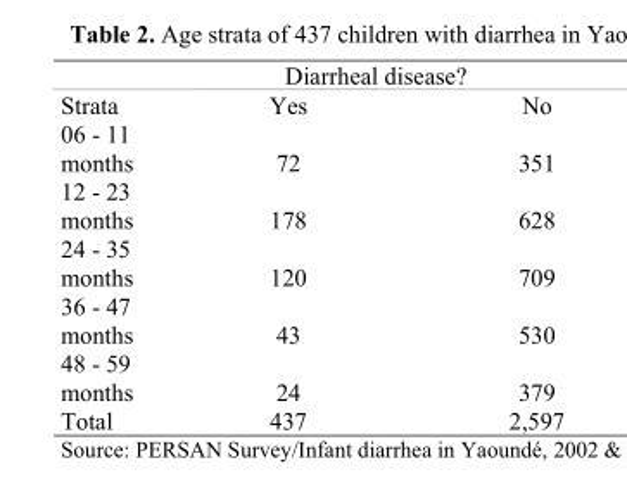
<table><thead><tr><td rowspan="2">Strata</td><td colspan="2">Diarrheal disease?</td></tr><tr><td>Yes</td><td>No</td></tr></thead><tbody><tr><td>06 - 11 months</td><td>72</td><td>351</td></tr><tr><td>12 - 23 months</td><td>178</td><td>628</td></tr><tr><td>24 - 35 months</td><td>120</td><td>709</td></tr><tr><td>36 - 47 months</td><td>43</td><td>530</td></tr><tr><td>48 - 59 months</td><td>24</td><td>379</td></tr><tr><td>Total</td><td>437</td><td>2,597</td></tr></tbody></table>